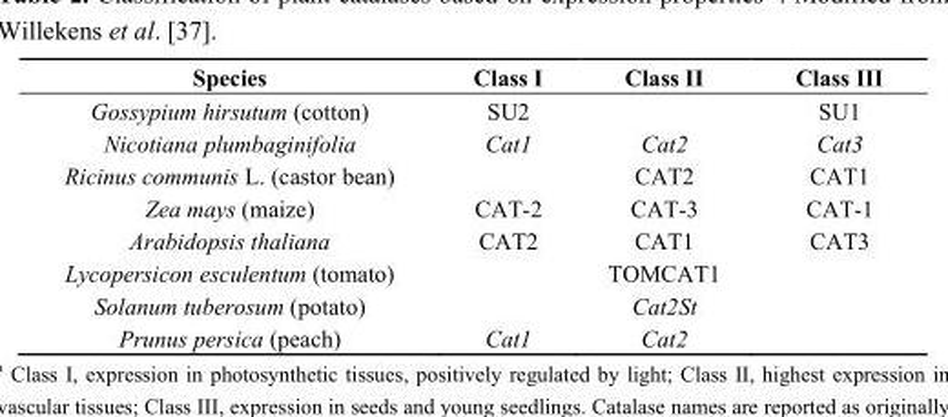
<table><thead><tr><td>Species</td><td>Class I</td><td>Class II</td><td>Class III</td></tr></thead><tbody><tr><td>Gossypium hirsutum (cotton)</td><td>SU2</td><td></td><td>SU1</td></tr><tr><td>Nicotiana plumbaginifolia</td><td>Cat1</td><td>Cat2</td><td>Cat3</td></tr><tr><td>Ricinus communis L. (castor bean)</td><td></td><td>CAT2</td><td>CAT1</td></tr><tr><td>Zea mays (maize)</td><td>CAT-2</td><td>CAT-3</td><td>CAT-1</td></tr><tr><td>Arabidopsis thaliana</td><td>CAT2</td><td>CAT1</td><td>CAT3</td></tr><tr><td>Lycopersicon esculentum (tomato)</td><td></td><td>TOMCAT1</td><td></td></tr><tr><td>Solanum tuberosum (potato)</td><td></td><td>Cat2St</td><td></td></tr><tr><td>Prunus persica (peach)</td><td>Cat1</td><td>Cat2</td><td></td></tr></tbody></table>